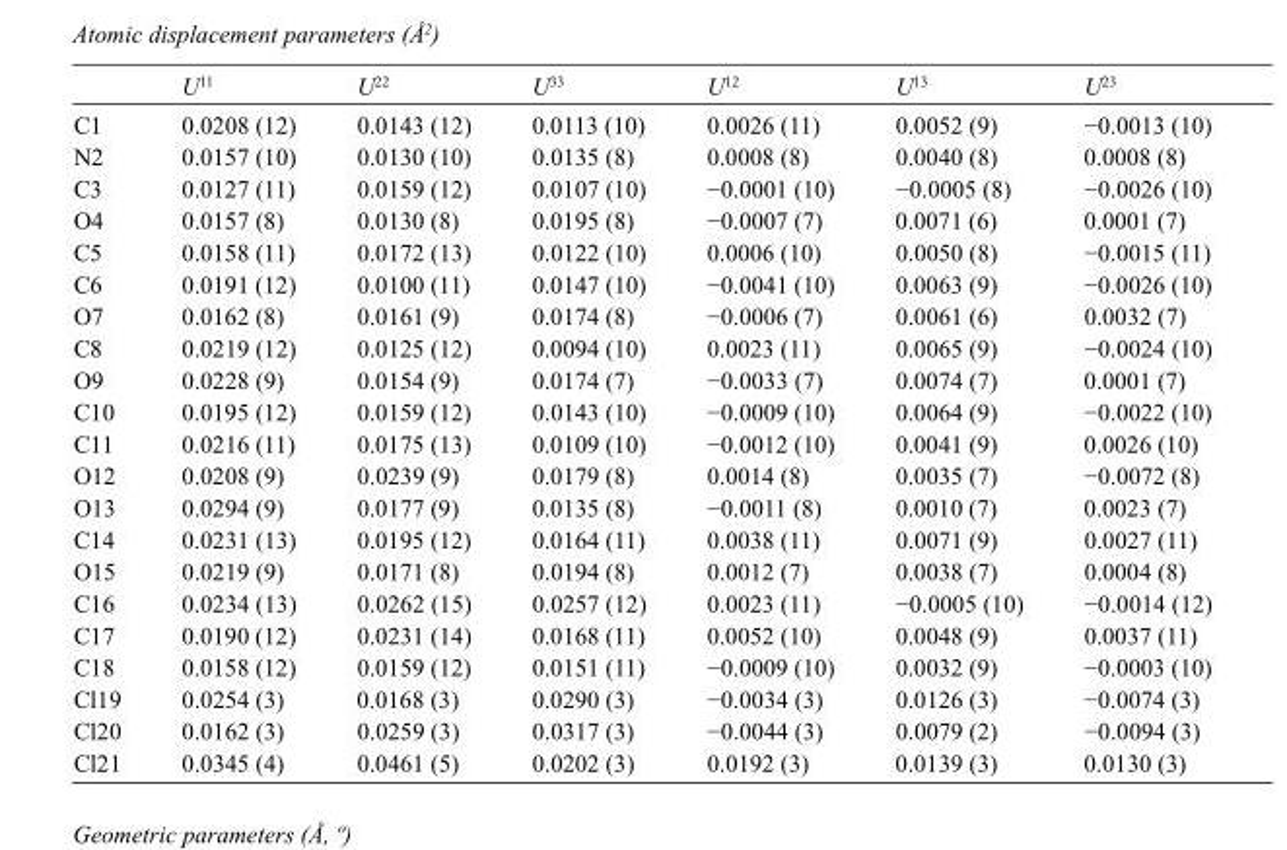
<table><thead><tr><td></td><td>U<sup>11</sup></td><td>U<sup>22</sup></td><td>U<sup>33</sup></td><td>U<sup>12</sup></td><td>U<sup>13</sup></td><td>U<sup>23</sup></td></tr></thead><tbody><tr><td>C1</td><td>0.0208 (12)</td><td>0.0143 (12)</td><td>0.0113 (10)</td><td>0.0026 (11)</td><td>0.0052 (9)</td><td>−0.0013 (10)</td></tr><tr><td>N2</td><td>0.0157 (10)</td><td>0.0130 (10)</td><td>0.0135 (8)</td><td>0.0008 (8)</td><td>0.0040 (8)</td><td>0.0008 (8)</td></tr><tr><td>C3</td><td>0.0127 (11)</td><td>0.0159 (12)</td><td>0.0107 (10)</td><td>−0.0001 (10)</td><td>−0.0005 (8)</td><td>−0.0026 (10)</td></tr><tr><td>O4</td><td>0.0157 (8)</td><td>0.0130 (8)</td><td>0.0195 (8)</td><td>−0.0007 (7)</td><td>0.0071 (6)</td><td>0.0001 (7)</td></tr><tr><td>C5</td><td>0.0158 (11)</td><td>0.0172 (13)</td><td>0.0122 (10)</td><td>0.0006 (10)</td><td>0.0050 (8)</td><td>−0.0015 (11)</td></tr><tr><td>C6</td><td>0.0191 (12)</td><td>0.0100 (11)</td><td>0.0147 (10)</td><td>−0.0041 (10)</td><td>0.0063 (9)</td><td>−0.0026 (10)</td></tr><tr><td>O7</td><td>0.0162 (8)</td><td>0.0161 (9)</td><td>0.0174 (8)</td><td>−0.0006 (7)</td><td>0.0061 (6)</td><td>0.0032 (7)</td></tr><tr><td>C8</td><td>0.0219 (12)</td><td>0.0125 (12)</td><td>0.0094 (10)</td><td>0.0023 (11)</td><td>0.0065 (9)</td><td>−0.0024 (10)</td></tr><tr><td>O9</td><td>0.0228 (9)</td><td>0.0154 (9)</td><td>0.0174 (7)</td><td>−0.0033 (7)</td><td>0.0074 (7)</td><td>0.0001 (7)</td></tr><tr><td>C10</td><td>0.0195 (12)</td><td>0.0159 (12)</td><td>0.0143 (10)</td><td>−0.0009 (10)</td><td>0.0064 (9)</td><td>−0.0022 (10)</td></tr><tr><td>C11</td><td>0.0216 (11)</td><td>0.0175 (13)</td><td>0.0109 (10)</td><td>−0.0012 (10)</td><td>0.0041 (9)</td><td>0.0026 (10)</td></tr><tr><td>O12</td><td>0.0208 (9)</td><td>0.0239 (9)</td><td>0.0179 (8)</td><td>0.0014 (8)</td><td>0.0035 (7)</td><td>−0.0072 (8)</td></tr><tr><td>O13</td><td>0.0294 (9)</td><td>0.0177 (9)</td><td>0.0135 (8)</td><td>−0.0011 (8)</td><td>0.0010 (7)</td><td>0.0023 (7)</td></tr><tr><td>C14</td><td>0.0231 (13)</td><td>0.0195 (12)</td><td>0.0164 (11)</td><td>0.0038 (11)</td><td>0.0071 (9)</td><td>0.0027 (11)</td></tr><tr><td>O15</td><td>0.0219 (9)</td><td>0.0171 (8)</td><td>0.0194 (8)</td><td>0.0012 (7)</td><td>0.0038 (7)</td><td>0.0004 (8)</td></tr><tr><td>C16</td><td>0.0234 (13)</td><td>0.0262 (15)</td><td>0.0257 (12)</td><td>0.0023 (11)</td><td>−0.0005 (10)</td><td>−0.0014 (12)</td></tr><tr><td>C17</td><td>0.0190 (12)</td><td>0.0231 (14)</td><td>0.0168 (11)</td><td>0.0052 (10)</td><td>0.0048 (9)</td><td>0.0037 (11)</td></tr><tr><td>C18</td><td>0.0158 (12)</td><td>0.0159 (12)</td><td>0.0151 (11)</td><td>−0.0009 (10)</td><td>0.0032 (9)</td><td>−0.0003 (10)</td></tr><tr><td>Cl19</td><td>0.0254 (3)</td><td>0.0168 (3)</td><td>0.0290 (3)</td><td>−0.0034 (3)</td><td>0.0126 (3)</td><td>−0.0074 (3)</td></tr><tr><td>Cl20</td><td>0.0162 (3)</td><td>0.0259 (3)</td><td>0.0317 (3)</td><td>−0.0044 (3)</td><td>0.0079 (2)</td><td>−0.0094 (3)</td></tr><tr><td>Cl21</td><td>0.0345 (4)</td><td>0.0461 (5)</td><td>0.0202 (3)</td><td>0.0192 (3)</td><td>0.0139 (3)</td><td>0.0130 (3)</td></tr></tbody></table>